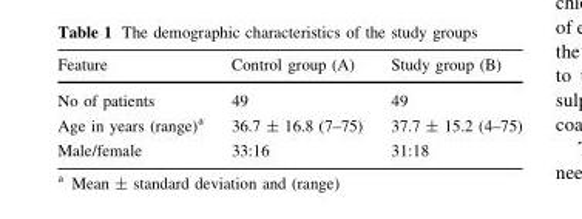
<table><thead><tr><td>Feature</td><td>Control group (A)</td><td>Study group (B)</td></tr></thead><tbody><tr><td>No of patients</td><td>49</td><td>49</td></tr><tr><td>Age in years (range)<sup>a</sup></td><td>36.7 ± 16.8 (7–75)</td><td>37.7 ± 15.2 (4–75)</td></tr><tr><td>Male/female</td><td>33:16</td><td>31:18</td></tr></tbody></table>